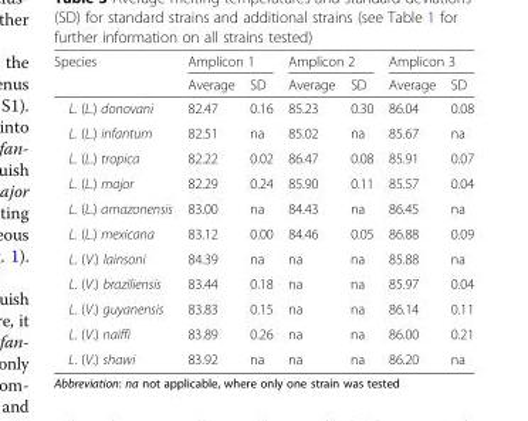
<table><thead><tr><td rowspan="2">Species</td><td colspan="2">Amplicon 1</td><td colspan="2">Amplicon 2</td><td colspan="2">Amplicon 3</td></tr><tr><td>Average</td><td>SD</td><td>Average</td><td>SD</td><td>Average</td><td>SD</td></tr></thead><tbody><tr><td>L. (L.) donovani</td><td>82.47</td><td>0.16</td><td>85.23</td><td>0.30</td><td>86.04</td><td>0.08</td></tr><tr><td>L. (L.) infantum</td><td>82.51</td><td>na</td><td>85.02</td><td>na</td><td>85.67</td><td>na</td></tr><tr><td>L. (L.) tropica</td><td>82.22</td><td>0.02</td><td>86.47</td><td>0.08</td><td>85.91</td><td>0.07</td></tr><tr><td>L. (L.) major</td><td>82.29</td><td>0.24</td><td>85.90</td><td>0.11</td><td>85.57</td><td>0.04</td></tr><tr><td>L. (L.) amazonensis</td><td>83.00</td><td>na</td><td>84.43</td><td>na</td><td>86.45</td><td>na</td></tr><tr><td>L. (L.) mexicana</td><td>83.12</td><td>0.00</td><td>84.46</td><td>0.05</td><td>86.88</td><td>0.09</td></tr><tr><td>L. (V.) lainsoni</td><td>84.39</td><td>na</td><td>na</td><td>na</td><td>85.88</td><td>na</td></tr><tr><td>L. (V.) braziliensis</td><td>83.44</td><td>0.18</td><td>na</td><td>na</td><td>85.97</td><td>0.04</td></tr><tr><td>L. (V.) guyanensis</td><td>83.83</td><td>0.15</td><td>na</td><td>na</td><td>86.14</td><td>0.11</td></tr><tr><td>L. (V.) naiffi</td><td>83.89</td><td>0.26</td><td>na</td><td>na</td><td>86.00</td><td>0.21</td></tr><tr><td>L. (V.) shawi</td><td>83.92</td><td>na</td><td>na</td><td>na</td><td>86.20</td><td>na</td></tr></tbody></table>